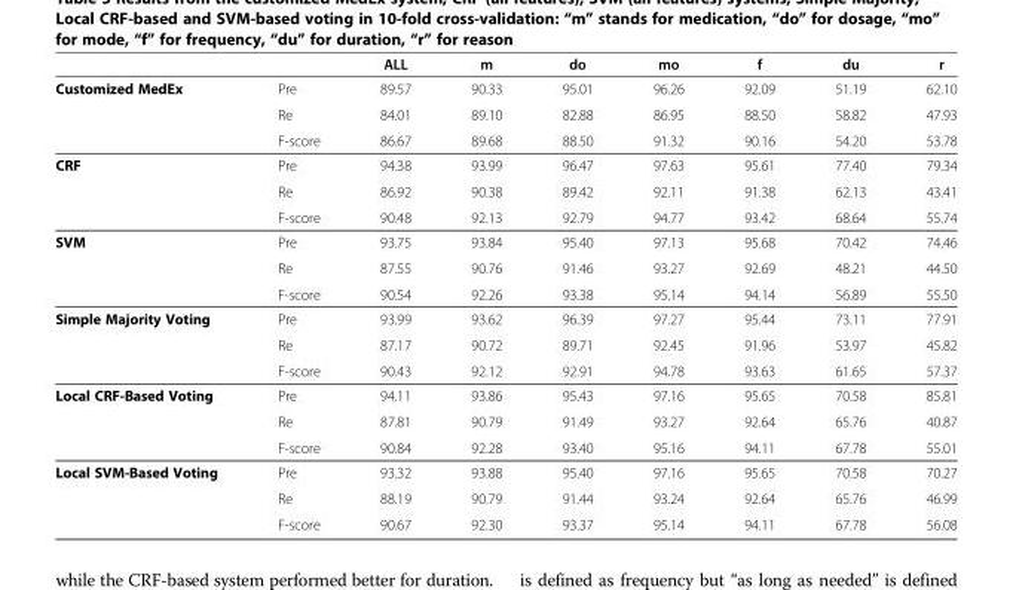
<table><thead><tr><td></td><td></td><td>ALL</td><td>m</td><td>do</td><td>mo</td><td>f</td><td>du</td><td>r</td></tr></thead><tbody><tr><td rowspan="3">Customized MedEx</td><td>Pre</td><td>89.57</td><td>90.33</td><td>95.01</td><td>96.26</td><td>92.09</td><td>51.19</td><td>62.10</td></tr><tr><td>Re</td><td>84.01</td><td>89.10</td><td>82.88</td><td>86.95</td><td>88.50</td><td>58.82</td><td>47.93</td></tr><tr><td>F-score</td><td>86.67</td><td>89.68</td><td>88.50</td><td>91.32</td><td>90.16</td><td>54.20</td><td>53.78</td></tr><tr><td rowspan="3">CRF</td><td>Pre</td><td>94.38</td><td>93.99</td><td>96.47</td><td>97.63</td><td>95.61</td><td>77.40</td><td>79.34</td></tr><tr><td>Re</td><td>86.92</td><td>90.38</td><td>89.42</td><td>92.11</td><td>91.38</td><td>62.13</td><td>43.41</td></tr><tr><td>F-score</td><td>90.48</td><td>92.13</td><td>92.79</td><td>94.77</td><td>93.42</td><td>68.64</td><td>55.74</td></tr><tr><td rowspan="3">SVM</td><td>Pre</td><td>93.75</td><td>93.84</td><td>95.40</td><td>97.13</td><td>95.68</td><td>70.42</td><td>74.46</td></tr><tr><td>Re</td><td>87.55</td><td>90.76</td><td>91.46</td><td>93.27</td><td>92.69</td><td>48.21</td><td>44.50</td></tr><tr><td>F-score</td><td>90.54</td><td>92.26</td><td>93.38</td><td>95.14</td><td>94.14</td><td>56.89</td><td>55.50</td></tr><tr><td rowspan="3">Simple Majority Voting</td><td>Pre</td><td>93.99</td><td>93.62</td><td>96.39</td><td>97.27</td><td>95.44</td><td>73.11</td><td>77.91</td></tr><tr><td>Re</td><td>87.17</td><td>90.72</td><td>89.71</td><td>92.45</td><td>91.96</td><td>53.97</td><td>45.82</td></tr><tr><td>F-score</td><td>90.43</td><td>92.12</td><td>92.91</td><td>94.78</td><td>93.63</td><td>61.65</td><td>57.37</td></tr><tr><td rowspan="3">Local CRF-Based Voting</td><td>Pre</td><td>94.11</td><td>93.86</td><td>95.43</td><td>97.16</td><td>95.65</td><td>70.58</td><td>85.81</td></tr><tr><td>Re</td><td>87.81</td><td>90.79</td><td>91.49</td><td>93.27</td><td>92.64</td><td>65.76</td><td>40.87</td></tr><tr><td>F-score</td><td>90.84</td><td>92.28</td><td>93.40</td><td>95.16</td><td>94.11</td><td>67.78</td><td>55.01</td></tr><tr><td rowspan="3">Local SVM-Based Voting</td><td>Pre</td><td>93.32</td><td>93.88</td><td>95.40</td><td>97.16</td><td>95.65</td><td>70.58</td><td>70.27</td></tr><tr><td>Re</td><td>88.19</td><td>90.79</td><td>91.44</td><td>93.24</td><td>92.64</td><td>65.76</td><td>46.99</td></tr><tr><td>F-score</td><td>90.67</td><td>92.30</td><td>93.37</td><td>95.14</td><td>94.11</td><td>67.78</td><td>56.08</td></tr></tbody></table>